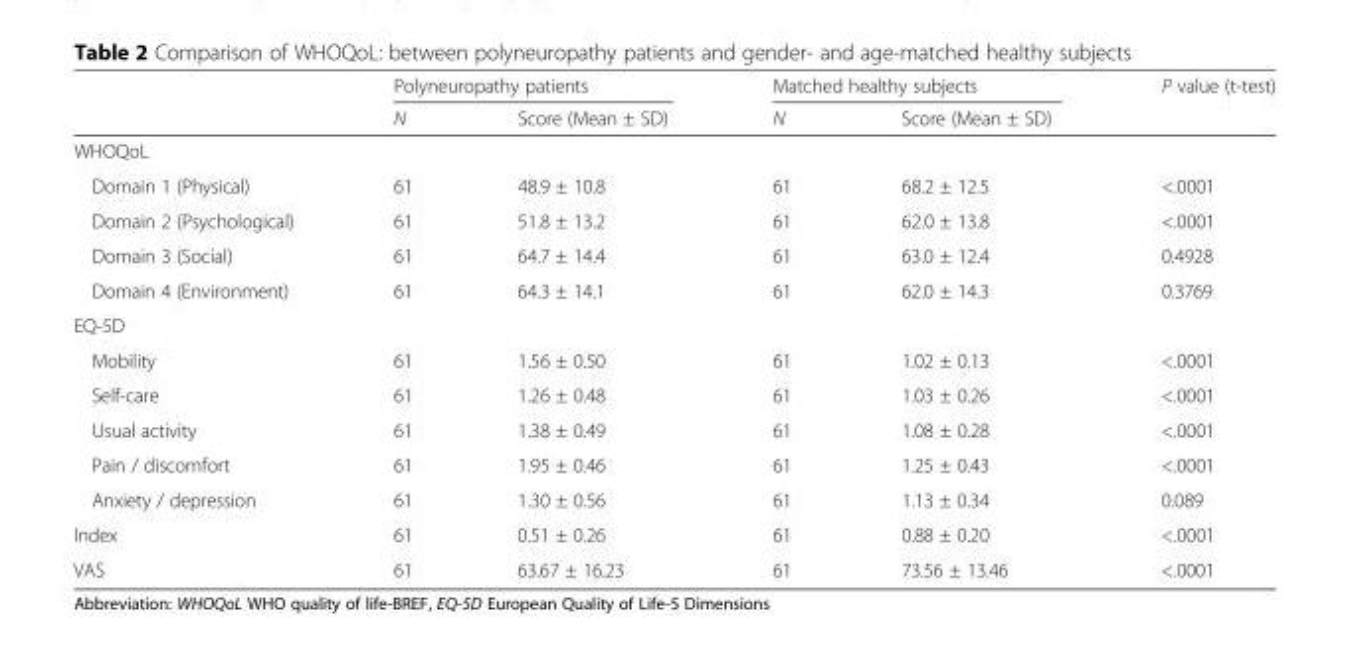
<table><thead><tr><td rowspan="2"></td><td colspan="2">Polyneuropathy patients</td><td colspan="2">Matched healthy subjects</td><td rowspan="2">P value (t-test)</td></tr><tr><td>N</td><td>Score (Mean ± SD)</td><td>N</td><td>Score (Mean ± SD)</td></tr></thead><tbody><tr><td colspan="6">WHOQoL</td></tr><tr><td>Domain 1 (Physical)</td><td>61</td><td>48.9 ± 10.8</td><td>61</td><td>68.2 ± 12.5</td><td>&lt;.0001</td></tr><tr><td>Domain 2 (Psychological)</td><td>61</td><td>51.8 ± 13.2</td><td>61</td><td>62.0 ± 13.8</td><td>&lt;.0001</td></tr><tr><td>Domain 3 (Social)</td><td>61</td><td>64.7 ± 14.4</td><td>61</td><td>63.0 ± 12.4</td><td>0.4928</td></tr><tr><td>Domain 4 (Environment)</td><td>61</td><td>64.3 ± 14.1</td><td>61</td><td>62.0 ± 14.3</td><td>0.3769</td></tr><tr><td colspan="6">EQ-5D</td></tr><tr><td>Mobility</td><td>61</td><td>1.56 ± 0.50</td><td>61</td><td>1.02 ± 0.13</td><td>&lt;.0001</td></tr><tr><td>Self-care</td><td>61</td><td>1.26 ± 0.48</td><td>61</td><td>1.03 ± 0.26</td><td>&lt;.0001</td></tr><tr><td>Usual activity</td><td>61</td><td>1.38 ± 0.49</td><td>61</td><td>1.08 ± 0.28</td><td>&lt;.0001</td></tr><tr><td>Pain / discomfort</td><td>61</td><td>1.95 ± 0.46</td><td>61</td><td>1.25 ± 0.43</td><td>&lt;.0001</td></tr><tr><td>Anxiety / depression</td><td>61</td><td>1.30 ± 0.56</td><td>61</td><td>1.13 ± 0.34</td><td>0.089</td></tr><tr><td>Index</td><td>61</td><td>0.51 ± 0.26</td><td>61</td><td>0.88 ± 0.20</td><td>&lt;.0001</td></tr><tr><td>VAS</td><td>61</td><td>63.67 ± 16.23</td><td>61</td><td>73.56 ± 13.46</td><td>&lt;.0001</td></tr></tbody></table>